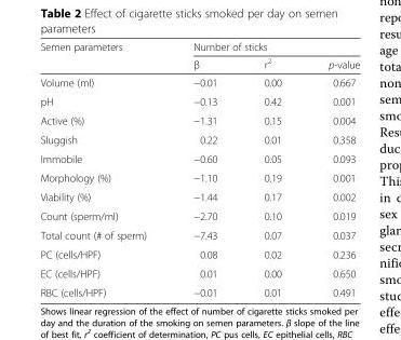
<table><thead><tr><td rowspan="2">Semen parameters</td><td colspan="3">Number of sticks</td></tr><tr><td>β</td><td>r<sup>2</sup></td><td>p-value</td></tr></thead><tbody><tr><td>Volume (ml)</td><td>−0.01</td><td>0.00</td><td>0.667</td></tr><tr><td>pH</td><td>−0.13</td><td>0.42</td><td>0.001</td></tr><tr><td>Active (%)</td><td>−1.31</td><td>0.15</td><td>0.004</td></tr><tr><td>Sluggish</td><td>0.22</td><td>0.01</td><td>0.358</td></tr><tr><td>Immobile</td><td>−0.60</td><td>0.05</td><td>0.093</td></tr><tr><td>Morphology (%)</td><td>−1.10</td><td>0.19</td><td>0.001</td></tr><tr><td>Viability (%)</td><td>−1.44</td><td>0.17</td><td>0.002</td></tr><tr><td>Count (sperm/ml)</td><td>−2.70</td><td>0.10</td><td>0.019</td></tr><tr><td>Total count (# of sperm)</td><td>−7.43</td><td>0.07</td><td>0.037</td></tr><tr><td>PC (cells/HPF)</td><td>0.08</td><td>0.02</td><td>0.236</td></tr><tr><td>EC (cells/HPF)</td><td>0.01</td><td>0.00</td><td>0.650</td></tr><tr><td>RBC (cells/HPF)</td><td>−0.01</td><td>0.01</td><td>0.491</td></tr></tbody></table>